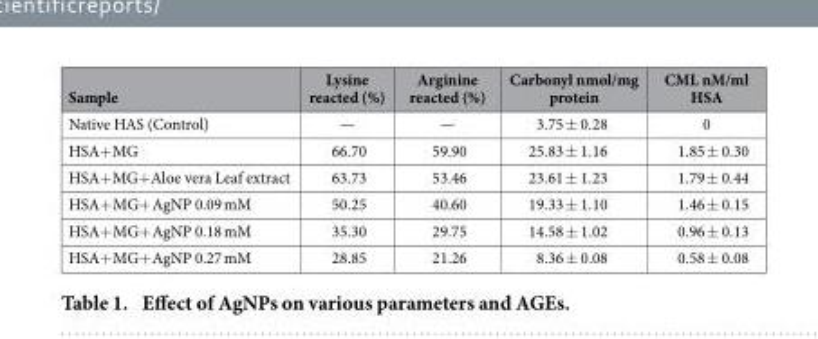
<table><thead><tr><td>Sample</td><td>Lysine reacted (%)</td><td>Arginine reacted (%)</td><td>Carbonyl nmol/mg protein</td><td>CML nM/ml HSA</td></tr></thead><tbody><tr><td>Native HAS (Control)</td><td>—</td><td>—</td><td>3.75 ± 0.28</td><td>0</td></tr><tr><td>HSA+MG</td><td>66.70</td><td>59.90</td><td>25.83 ± 1.16</td><td>1.85 ± 0.30</td></tr><tr><td>HSA+MG+Aloe vera Leaf extract</td><td>63.73</td><td>53.46</td><td>23.61 ± 1.23</td><td>1.79 ± 0.44</td></tr><tr><td>HSA+ MG+ AgNP 0.09 mM</td><td>50.25</td><td>40.60</td><td>19.33 ± 1.10</td><td>1.46 ± 0.15</td></tr><tr><td>HSA+ MG+ AgNP 0.18 mM</td><td>35.30</td><td>29.75</td><td>14.58 ± 1.02</td><td>0.96 ± 0.13</td></tr><tr><td>HSA+ MG+ AgNP 0.27 mM</td><td>28.85</td><td>21.26</td><td>8.36 ± 0.08</td><td>0.58 ± 0.08</td></tr></tbody></table>